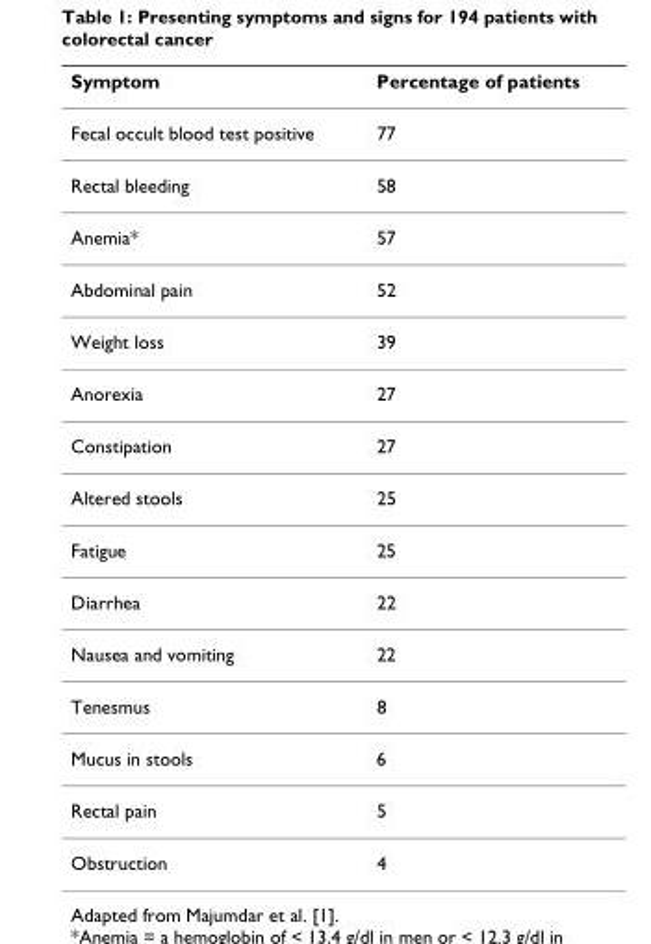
<table><thead><tr><td>Symptom</td><td>Percentage of patients</td></tr></thead><tbody><tr><td>Fecal occult blood test positive</td><td>77</td></tr><tr><td>Rectal bleeding</td><td>58</td></tr><tr><td>Anemia*</td><td>57</td></tr><tr><td>Abdominal pain</td><td>52</td></tr><tr><td>Weight loss</td><td>39</td></tr><tr><td>Anorexia</td><td>27</td></tr><tr><td>Constipation</td><td>27</td></tr><tr><td>Altered stools</td><td>25</td></tr><tr><td>Fatigue</td><td>25</td></tr><tr><td>Diarrhea</td><td>22</td></tr><tr><td>Nausea and vomiting</td><td>22</td></tr><tr><td>Tenesmus</td><td>8</td></tr><tr><td>Mucus in stools</td><td>6</td></tr><tr><td>Rectal pain</td><td>5</td></tr><tr><td>Obstruction</td><td>4</td></tr></tbody></table>